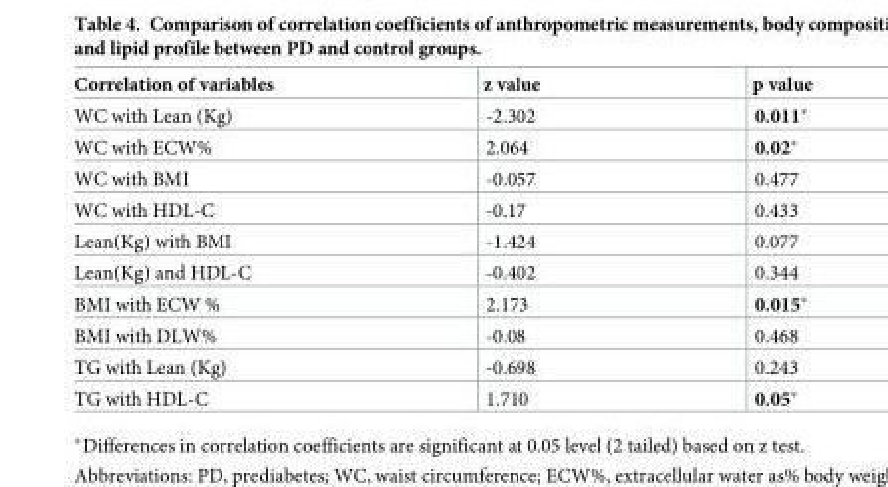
<table><thead><tr><td>Correlation of variables</td><td>z value</td><td>p value</td></tr></thead><tbody><tr><td>WC with Lean (Kg)</td><td>-2.302</td><td>0.011*</td></tr><tr><td>WC with ECW%</td><td>2.064</td><td>0.02*</td></tr><tr><td>WC with BMI</td><td>-0.057</td><td>0.477</td></tr><tr><td>WC with HDL-C</td><td>-0.17</td><td>0.433</td></tr><tr><td>Lean(Kg) with BMI</td><td>-1.424</td><td>0.077</td></tr><tr><td>Lean(Kg) and HDL-C</td><td>-0.402</td><td>0.344</td></tr><tr><td>BMI with ECW %</td><td>2.173</td><td>0.015*</td></tr><tr><td>BMI with DLW%</td><td>-0.08</td><td>0.468</td></tr><tr><td>TG with Lean (Kg)</td><td>-0.698</td><td>0.243</td></tr><tr><td>TG with HDL-C</td><td>1.710</td><td>0.05*</td></tr></tbody></table>